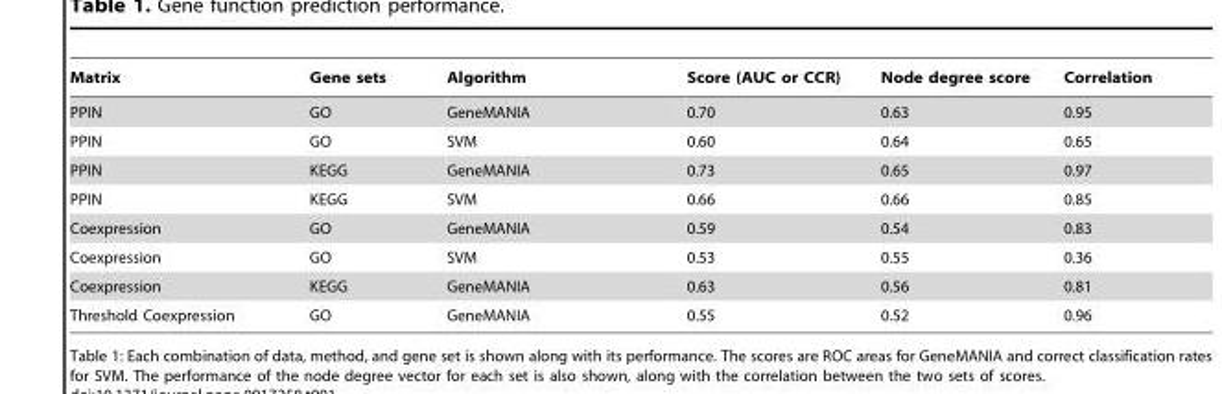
<table><thead><tr><td>Matrix</td><td>Gene sets</td><td>Algorithm</td><td>Score (AUC or CCR)</td><td>Node degree score</td><td>Correlation</td></tr></thead><tbody><tr><td>PPIN</td><td>GO</td><td>GeneMANIA</td><td>0.70</td><td>0.63</td><td>0.95</td></tr><tr><td>PPIN</td><td>GO</td><td>SVM</td><td>0.60</td><td>0.64</td><td>0.65</td></tr><tr><td>PPIN</td><td>KEGG</td><td>GeneMANIA</td><td>0.73</td><td>0.65</td><td>0.97</td></tr><tr><td>PPIN</td><td>KEGG</td><td>SVM</td><td>0.66</td><td>0.66</td><td>0.85</td></tr><tr><td>Coexpression</td><td>GO</td><td>GeneMANIA</td><td>0.59</td><td>0.54</td><td>0.83</td></tr><tr><td>Coexpression</td><td>GO</td><td>SVM</td><td>0.53</td><td>0.55</td><td>0.36</td></tr><tr><td>Coexpression</td><td>KEGG</td><td>GeneMANIA</td><td>0.63</td><td>0.56</td><td>0.81</td></tr><tr><td>Threshold Coexpression</td><td>GO</td><td>GeneMANIA</td><td>0.55</td><td>0.52</td><td>0.96</td></tr></tbody></table>